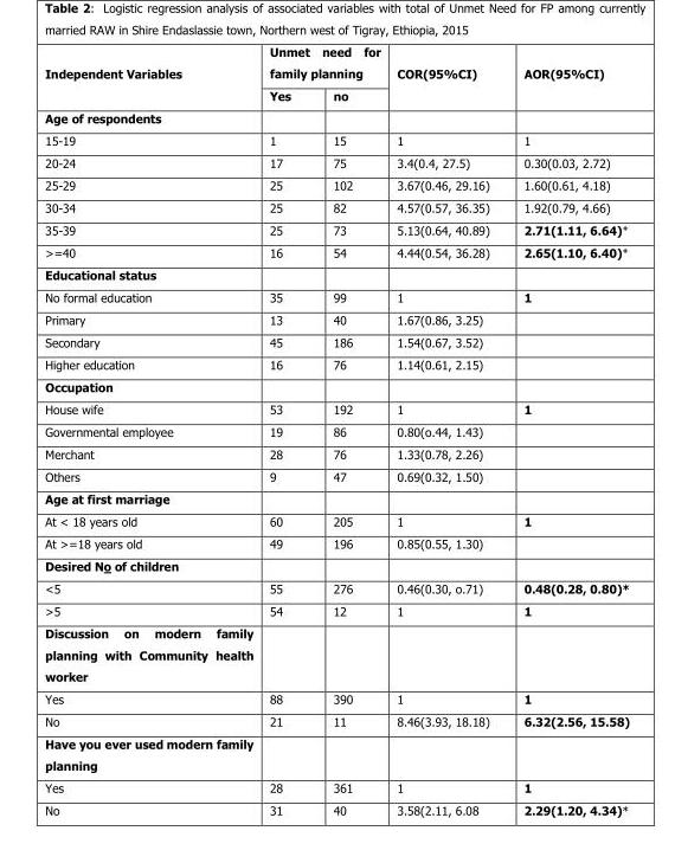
<table><thead><tr><td rowspan="2">Independent Variables</td><td colspan="2">Unmet need for family planning</td><td rowspan="2">COR(95%CI)</td><td rowspan="2">AOR(95%CI)</td></tr><tr><td>Yes</td><td>no</td></tr></thead><tbody><tr><td colspan="5">Age of respondents</td></tr><tr><td>15-19</td><td>1</td><td>15</td><td>1</td><td>1</td></tr><tr><td>20-24</td><td>17</td><td>75</td><td>3.4(0.4, 27.5)</td><td>0.30(0.03, 2.72)</td></tr><tr><td>25-29</td><td>25</td><td>102</td><td>3.67(0.46, 29.16)</td><td>1.60(0.61, 4.18)</td></tr><tr><td>30-34</td><td>25</td><td>82</td><td>4.57(0.57, 36.35)</td><td>1.92(0.79, 4.66)</td></tr><tr><td>35-39</td><td>25</td><td>73</td><td>5.13(0.64, 40.89)</td><td>2.71(1.11, 6.64)<sup>+</sup></td></tr><tr><td>&gt;=40</td><td>16</td><td>54</td><td>4.44(0.54, 36.28)</td><td>2.65(1.10, 6.40)<sup>+</sup></td></tr><tr><td colspan="5">Educational status</td></tr><tr><td>No formal education</td><td>35</td><td>99</td><td>1</td><td>1</td></tr><tr><td>Primary</td><td>13</td><td>40</td><td>1.67(0.86, 3.25)</td><td></td></tr><tr><td>Secondary</td><td>45</td><td>186</td><td>1.54(0.67, 3.52)</td><td></td></tr><tr><td>Higher education</td><td>16</td><td>76</td><td>1.14(0.61, 2.15)</td><td></td></tr><tr><td colspan="5">Occupation</td></tr><tr><td>House wife</td><td>53</td><td>192</td><td>1</td><td>1</td></tr><tr><td>Governmental employee</td><td>19</td><td>86</td><td>0.80(o.44, 1.43)</td><td></td></tr><tr><td>Merchant</td><td>28</td><td>76</td><td>1.33(0.78, 2.26)</td><td></td></tr><tr><td>Others</td><td>9</td><td>47</td><td>0.69(0.32, 1.50)</td><td></td></tr><tr><td colspan="5">Age at first marriage</td></tr><tr><td>At &lt; 18 years old</td><td>60</td><td>205</td><td>1</td><td>1</td></tr><tr><td>At &gt;=18 years old</td><td>49</td><td>196</td><td>0.85(0.55, 1.30)</td><td></td></tr><tr><td colspan="5">Desired No of children</td></tr><tr><td>&lt;5</td><td>55</td><td>276</td><td>0.46(0.30, o.71)</td><td>0.48(0.28, 0.80)*</td></tr><tr><td>&gt;5</td><td>54</td><td>12</td><td>1</td><td>1</td></tr><tr><td colspan="5">Discussion on modern family planning with Community health worker</td></tr><tr><td>Yes</td><td>88</td><td>390</td><td>1</td><td>1</td></tr><tr><td>No</td><td>21</td><td>11</td><td>8.46(3.93, 18.18)</td><td>6.32(2.56, 15.58)</td></tr><tr><td colspan="5">Have you ever used modern family planning</td></tr><tr><td>Yes</td><td>28</td><td>361</td><td>1</td><td>1</td></tr><tr><td>No</td><td>31</td><td>40</td><td>3.58(2.11, 6.08</td><td>2.29(1.20, 4.34)*</td></tr></tbody></table>